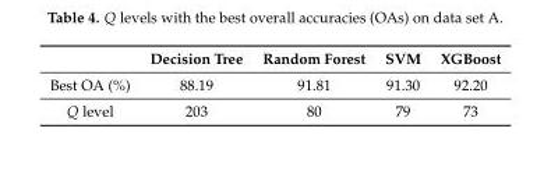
<table><thead><tr><td></td><td>Decision Tree</td><td>Random Forest</td><td>SVM</td><td>XGBoost</td></tr></thead><tbody><tr><td>Best OA (%)</td><td>88.19</td><td>91.81</td><td>91.30</td><td>92.20</td></tr><tr><td>Q level</td><td>203</td><td>80</td><td>79</td><td>73</td></tr></tbody></table>